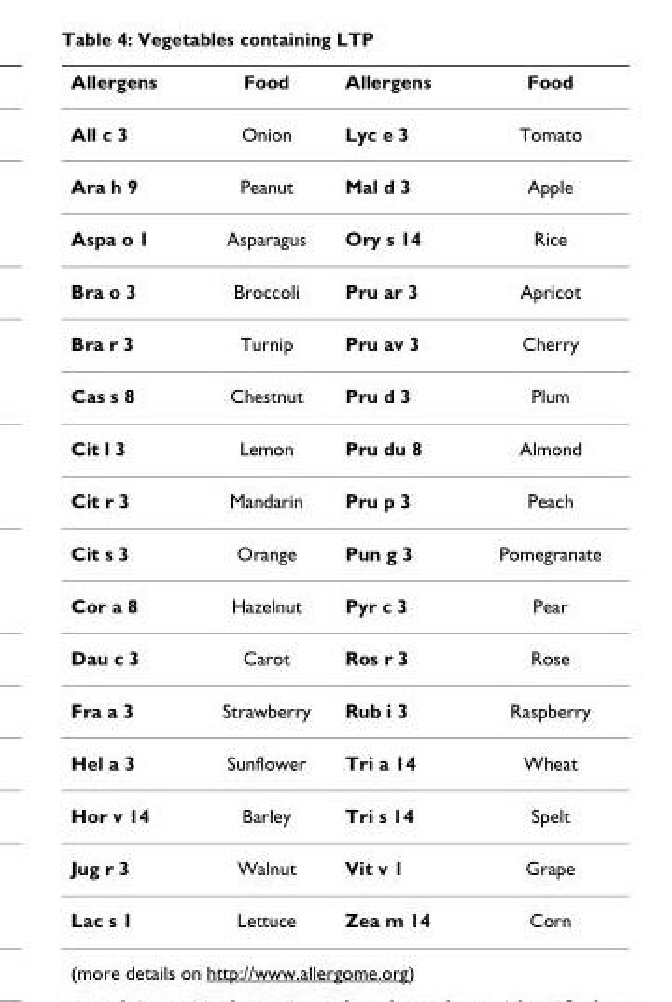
<table><thead><tr><td>Allergens</td><td>Food</td><td>Allergens</td><td>Food</td></tr></thead><tbody><tr><td>All c 3</td><td>Onion</td><td>Lyc e 3</td><td>Tomato</td></tr><tr><td>Ara h 9</td><td>Peanut</td><td>Mal d 3</td><td>Apple</td></tr><tr><td>Aspa o 1</td><td>Asparagus</td><td>Ory s 14</td><td>Rice</td></tr><tr><td>Bra o 3</td><td>Broccoli</td><td>Pru ar 3</td><td>Apricot</td></tr><tr><td>Bra r 3</td><td>Turnip</td><td>Pru av 3</td><td>Cherry</td></tr><tr><td>Cas s 8</td><td>Chestnut</td><td>Pru d 3</td><td>Plum</td></tr><tr><td>Cit l 3</td><td>Lemon</td><td>Pru du 8</td><td>Almond</td></tr><tr><td>Cit r 3</td><td>Mandarin</td><td>Pru p 3</td><td>Peach</td></tr><tr><td>Cit s 3</td><td>Orange</td><td>Pun g 3</td><td>Pomegranate</td></tr><tr><td>Cor a 8</td><td>Hazelnut</td><td>Pyr c 3</td><td>Pear</td></tr><tr><td>Dau c 3</td><td>Carot</td><td>Ros r 3</td><td>Rose</td></tr><tr><td>Fra a 3</td><td>Strawberry</td><td>Rub i 3</td><td>Raspberry</td></tr><tr><td>Hel a 3</td><td>Sunflower</td><td>Tri a 14</td><td>Wheat</td></tr><tr><td>Hor v 14</td><td>Barley</td><td>Tri s 14</td><td>Spelt</td></tr><tr><td>Jug r 3</td><td>Walnut</td><td>Vit v 1</td><td>Grape</td></tr><tr><td>Lac s 1</td><td>Lettuce</td><td>Zea m 14</td><td>Corn</td></tr></tbody></table>